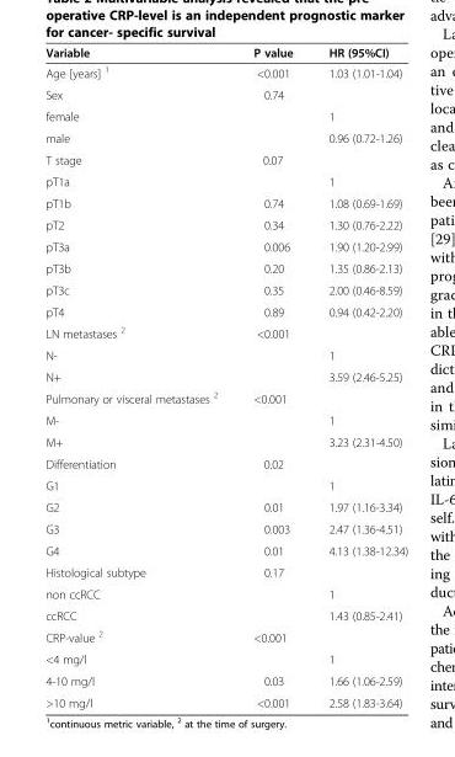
<table><thead><tr><td>Variable</td><td>P value</td><td>HR (95%CI)</td></tr></thead><tbody><tr><td>Age [years] <sup>1</sup></td><td>&lt;0.001</td><td>1.03 (1.01-1.04)</td></tr><tr><td>Sex</td><td>0.74</td><td></td></tr><tr><td>female</td><td></td><td>1</td></tr><tr><td>male</td><td></td><td>0.96 (0.72-1.26)</td></tr><tr><td>T stage</td><td>0.07</td><td></td></tr><tr><td>pT1a</td><td></td><td>1</td></tr><tr><td>pT1b</td><td>0.74</td><td>1.08 (0.69-1.69)</td></tr><tr><td>pT2</td><td>0.34</td><td>1.30 (0.76-2.22)</td></tr><tr><td>pT3a</td><td>0.006</td><td>1.90 (1.20-2.99)</td></tr><tr><td>pT3b</td><td>0.20</td><td>1.35 (0.86-2.13)</td></tr><tr><td>pT3c</td><td>0.35</td><td>2.00 (0.46-8.59)</td></tr><tr><td>pT4</td><td>0.89</td><td>0.94 (0.42-2.20)</td></tr><tr><td>LN metastases <sup>2</sup></td><td>&lt;0.001</td><td></td></tr><tr><td>N-</td><td></td><td>1</td></tr><tr><td>N+</td><td></td><td>3.59 (2.46-5.25)</td></tr><tr><td>Pulmonary or visceral metastases <sup>2</sup></td><td>&lt;0.001</td><td></td></tr><tr><td>M-</td><td></td><td>1</td></tr><tr><td>M+</td><td></td><td>3.23 (2.31-4.50)</td></tr><tr><td>Differentiation</td><td>0.02</td><td></td></tr><tr><td>G1</td><td></td><td>1</td></tr><tr><td>G2</td><td>0.01</td><td>1.97 (1.16-3.34)</td></tr><tr><td>G3</td><td>0.003</td><td>2.47 (1.36-4.51)</td></tr><tr><td>G4</td><td>0.01</td><td>4.13 (1.38-12.34)</td></tr><tr><td>Histological subtype</td><td>0.17</td><td></td></tr><tr><td>non ccRCC</td><td></td><td>1</td></tr><tr><td>ccRCC</td><td></td><td>1.43 (0.85-2.41)</td></tr><tr><td>CRP-value <sup>2</sup></td><td>&lt;0.001</td><td></td></tr><tr><td>&lt;4 mg/l</td><td></td><td>1</td></tr><tr><td>4-10 mg/l</td><td>0.03</td><td>1.66 (1.06-2.59)</td></tr><tr><td>&gt;10 mg/l</td><td>&lt;0.001</td><td>2.58 (1.83-3.64)</td></tr></tbody></table>